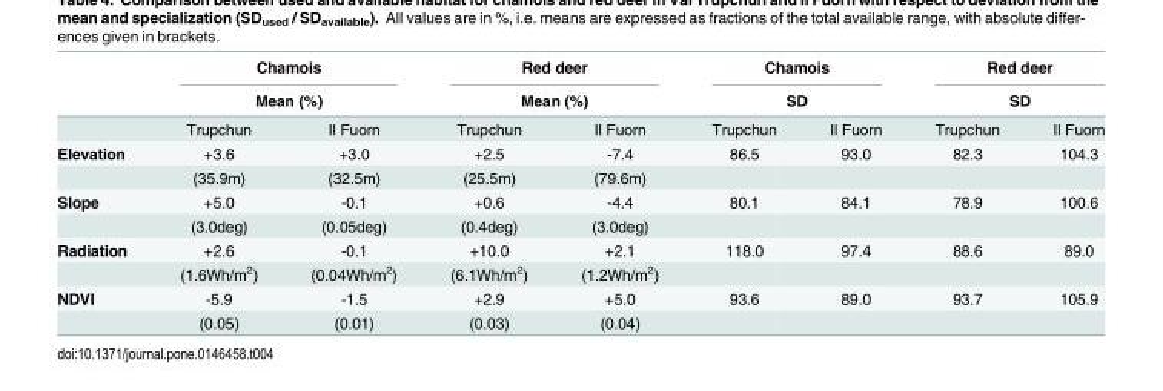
<table><thead><tr><td rowspan="3"></td><td rowspan="2" colspan="2">Chamois Mean (%)</td><td rowspan="2" colspan="2">Red deer Mean (%)</td><td rowspan="2" colspan="2">Chamois SD</td><td rowspan="2" colspan="2">Red deer SD</td></tr><tr></tr><tr><td>Trupchun</td><td>Il Fuorn</td><td>Trupchun</td><td>Il Fuorn</td><td>Trupchun</td><td>Il Fuorn</td><td>Trupchun</td><td>Il Fuorn</td></tr></thead><tbody><tr><td rowspan="2">Elevation</td><td>+3.6</td><td>+3.0</td><td>+2.5</td><td>-7.4</td><td>86.5</td><td>93.0</td><td>82.3</td><td>104.3</td></tr><tr><td>(35.9m)</td><td>(32.5m)</td><td>(25.5m)</td><td>(79.6m)</td><td></td><td></td><td></td><td></td></tr><tr><td rowspan="2">Slope</td><td>+5.0</td><td>-0.1</td><td>+0.6</td><td>-4.4</td><td>80.1</td><td>84.1</td><td>78.9</td><td>100.6</td></tr><tr><td>(3.0deg)</td><td>(0.05deg)</td><td>(0.4deg)</td><td>(3.0deg)</td><td></td><td></td><td></td><td></td></tr><tr><td rowspan="2">Radiation</td><td>+2.6</td><td>-0.1</td><td>+10.0</td><td>+2.1</td><td>118.0</td><td>97.4</td><td>88.6</td><td>89.0</td></tr><tr><td>(1.6Wh/m<sup>2</sup>)</td><td>(0.04Wh/m<sup>2</sup>)</td><td>(6.1Wh/m<sup>2</sup>)</td><td>(1.2Wh/m<sup>2</sup>)</td><td></td><td></td><td></td><td></td></tr><tr><td rowspan="2">NDVI</td><td>-5.9</td><td>-1.5</td><td>+2.9</td><td>+5.0</td><td>93.6</td><td>89.0</td><td>93.7</td><td>105.9</td></tr><tr><td>(0.05)</td><td>(0.01)</td><td>(0.03)</td><td>(0.04)</td><td></td><td></td><td></td><td></td></tr></tbody></table>